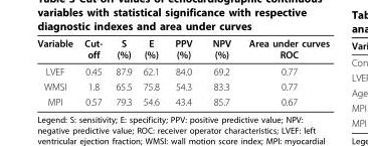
<table><thead><tr><td>Variable</td><td>Cut- off</td><td>S (%)</td><td>E (%)</td><td>PPV (%)</td><td>NPV (%)</td><td>Area under curves ROC</td></tr></thead><tbody><tr><td>LVEF</td><td>0.45</td><td>87.9</td><td>62.1</td><td>84.0</td><td>69.2</td><td>0.77</td></tr><tr><td>WMSI</td><td>1.8</td><td>65.5</td><td>75.8</td><td>54.3</td><td>83.3</td><td>0.77</td></tr><tr><td>MPI</td><td>0.57</td><td>79.3</td><td>54.6</td><td>43.4</td><td>85.7</td><td>0.67</td></tr></tbody></table>